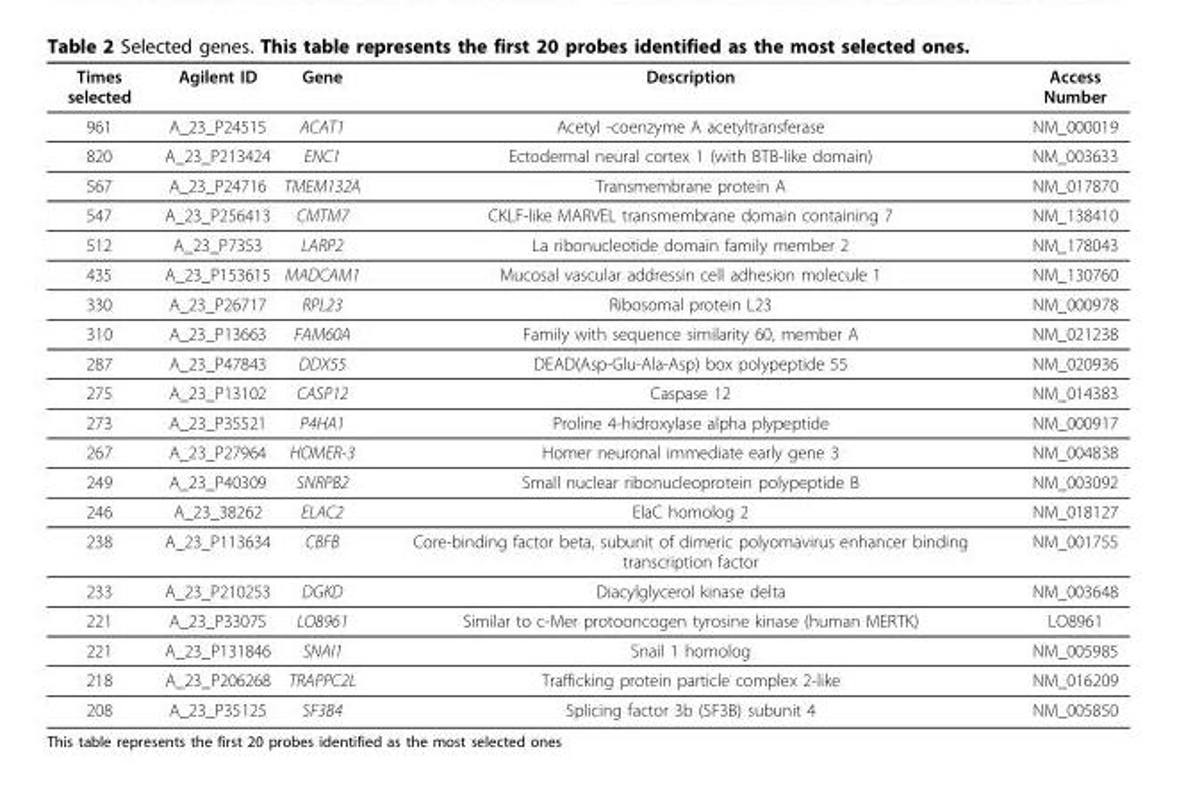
<table><thead><tr><td>Times selected</td><td>Agilent ID</td><td>Gene</td><td>Description</td><td>Access Number</td></tr></thead><tbody><tr><td>961</td><td>A_23_P24515</td><td>ACAT1</td><td>Acetyl -coenzyme A acetyltransferase</td><td>NM_000019</td></tr><tr><td>820</td><td>A_23_P213424</td><td>ENC1</td><td>Ectodermal neural cortex 1 (with BTB-like domain)</td><td>NM_003633</td></tr><tr><td>567</td><td>A_23_P24716</td><td>TMEM132A</td><td>Transmembrane protein A</td><td>NM_017870</td></tr><tr><td>547</td><td>A_23_P256413</td><td>CMTM7</td><td>CKLF-like MARVEL transmembrane domain containing 7</td><td>NM_138410</td></tr><tr><td>512</td><td>A_23_P7353</td><td>LARP2</td><td>La ribonucleotide domain family member 2</td><td>NM_178043</td></tr><tr><td>435</td><td>A_23_P153615</td><td>MADCAM1</td><td>Mucosal vascular addressin cell adhesion molecule 1</td><td>NM_130760</td></tr><tr><td>330</td><td>A_23_P26717</td><td>RPL23</td><td>Ribosomal protein L23</td><td>NM_000978</td></tr><tr><td>310</td><td>A_23_P13663</td><td>FAM60A</td><td>Family with sequence similarity 60, member A</td><td>NM_021238</td></tr><tr><td>287</td><td>A_23_P47843</td><td>DDX55</td><td>DEAD(Asp-Glu-Ala-Asp) box polypeptide 55</td><td>NM_020936</td></tr><tr><td>275</td><td>A_23_P13102</td><td>CASP12</td><td>Caspase 12</td><td>NM_014383</td></tr><tr><td>273</td><td>A_23_P35521</td><td>P4HA1</td><td>Proline 4-hidroxylase alpha plypeptide</td><td>NM_000917</td></tr><tr><td>267</td><td>A_23_P27964</td><td>HOMER-3</td><td>Homer neuronal immediate early gene 3</td><td>NM_004838</td></tr><tr><td>249</td><td>A_23_P40309</td><td>SNRPB2</td><td>Small nuclear ribonucleoprotein polypeptide B</td><td>NM_003092</td></tr><tr><td>246</td><td>A_23_38262</td><td>ELAC2</td><td>ElaC homolog 2</td><td>NM_018127</td></tr><tr><td>238</td><td>A_23_P113634</td><td>CBFB</td><td>Core-binding factor beta, subunit of dimeric polyomavirus enhancer binding transcription factor</td><td>NM_001755</td></tr><tr><td>233</td><td>A_23_P210253</td><td>DGKD</td><td>Diacylglycerol kinase delta</td><td>NM_003648</td></tr><tr><td>221</td><td>A_23_P33075</td><td>LO8961</td><td>Similar to c-Mer protooncogen tyrosine kinase (human MERTK)</td><td>LO8961</td></tr><tr><td>221</td><td>A_23_P131846</td><td>SNAI1</td><td>Snail 1 homolog</td><td>NM_005985</td></tr><tr><td>218</td><td>A_23_P206268</td><td>TRAPPC2L</td><td>Trafficking protein particle complex 2-like</td><td>NM_016209</td></tr><tr><td>208</td><td>A_23_P35125</td><td>SF3B4</td><td>Splicing factor 3b (SF3B) subunit 4</td><td>NM_005850</td></tr></tbody></table>